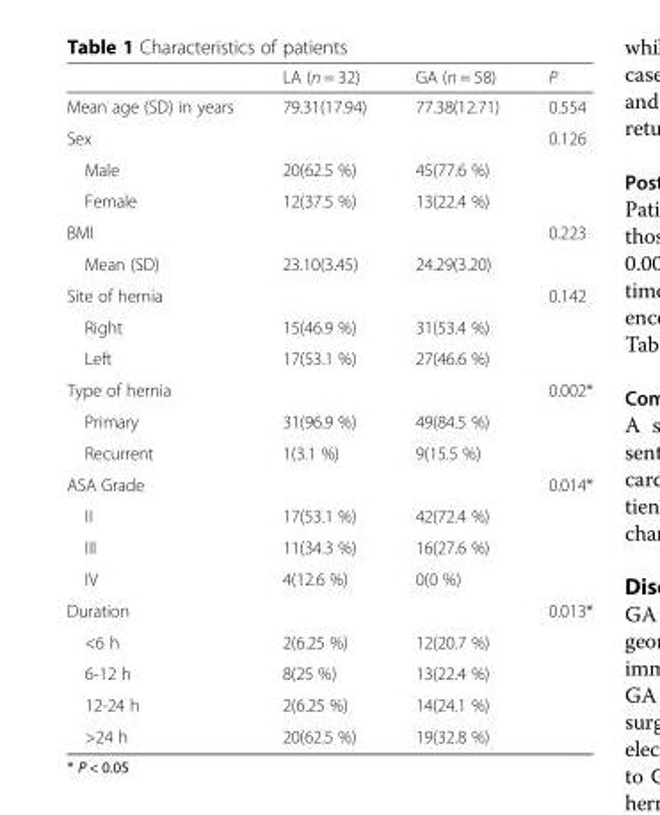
<table><thead><tr><td></td><td>LA (n = 32)</td><td>GA (n = 58)</td><td>P</td></tr></thead><tbody><tr><td>Mean age (SD) in years</td><td>79.31(17.94)</td><td>77.38(12.71)</td><td>0.554</td></tr><tr><td>Sex</td><td></td><td></td><td>0.126</td></tr><tr><td>Male</td><td>20(62.5 %)</td><td>45(77.6 %)</td><td></td></tr><tr><td>Female</td><td>12(37.5 %)</td><td>13(22.4 %)</td><td></td></tr><tr><td>BMI</td><td></td><td></td><td>0.223</td></tr><tr><td>Mean (SD)</td><td>23.10(3.45)</td><td>24.29(3.20)</td><td></td></tr><tr><td>Site of hernia</td><td></td><td></td><td>0.142</td></tr><tr><td>Right</td><td>15(46.9 %)</td><td>31(53.4 %)</td><td></td></tr><tr><td>Left</td><td>17(53.1 %)</td><td>27(46.6 %)</td><td></td></tr><tr><td>Type of hernia</td><td></td><td></td><td>0.002*</td></tr><tr><td>Primary</td><td>31(96.9 %)</td><td>49(84.5 %)</td><td></td></tr><tr><td>Recurrent</td><td>1(3.1 %)</td><td>9(15.5 %)</td><td></td></tr><tr><td>ASA Grade</td><td></td><td></td><td>0.014*</td></tr><tr><td>II</td><td>17(53.1 %)</td><td>42(72.4 %)</td><td></td></tr><tr><td>III</td><td>11(34.3 %)</td><td>16(27.6 %)</td><td></td></tr><tr><td>IV</td><td>4(12.6 %)</td><td>0(0 %)</td><td></td></tr><tr><td>Duration</td><td></td><td></td><td>0.013*</td></tr><tr><td>&lt;6 h</td><td>2(6.25 %)</td><td>12(20.7 %)</td><td></td></tr><tr><td>6-12 h</td><td>8(25 %)</td><td>13(22.4 %)</td><td></td></tr><tr><td>12-24 h</td><td>2(6.25 %)</td><td>14(24.1 %)</td><td></td></tr><tr><td>&gt;24 h</td><td>20(62.5 %)</td><td>19(32.8 %)</td><td></td></tr></tbody></table>